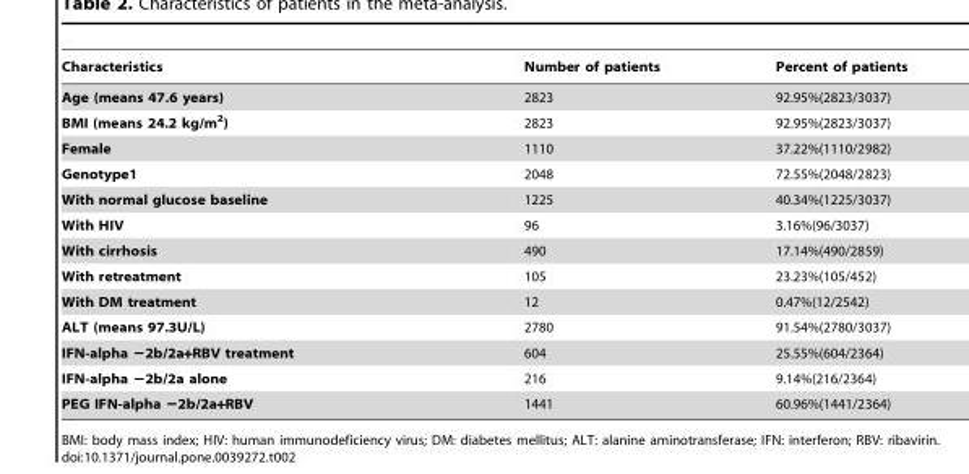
<table><thead><tr><td>Characteristics</td><td>Number of patients</td><td>Percent of patients</td></tr></thead><tbody><tr><td>Age (means 47.6 years)</td><td>2823</td><td>92.95%(2823/3037)</td></tr><tr><td>BMI (means 24.2 kg/m<sup>2</sup>)</td><td>2823</td><td>92.95%(2823/3037)</td></tr><tr><td>Female</td><td>1110</td><td>37.22%(1110/2982)</td></tr><tr><td>Genotype1</td><td>2048</td><td>72.55%(2048/2823)</td></tr><tr><td>With normal glucose baseline</td><td>1225</td><td>40.34%(1225/3037)</td></tr><tr><td>With HIV</td><td>96</td><td>3.16%(96/3037)</td></tr><tr><td>With cirrhosis</td><td>490</td><td>17.14%(490/2859)</td></tr><tr><td>With retreatment</td><td>105</td><td>23.23%(105/452)</td></tr><tr><td>With DM treatment</td><td>12</td><td>0.47%(12/2542)</td></tr><tr><td>ALT (means 97.3U/L)</td><td>2780</td><td>91.54%(2780/3037)</td></tr><tr><td>IFN-alpha −2b/2a+RBV treatment</td><td>604</td><td>25.55%(604/2364)</td></tr><tr><td>IFN-alpha −2b/2a alone</td><td>216</td><td>9.14%(216/2364)</td></tr><tr><td>PEG IFN-alpha −2b/2a+RBV</td><td>1441</td><td>60.96%(1441/2364)</td></tr></tbody></table>